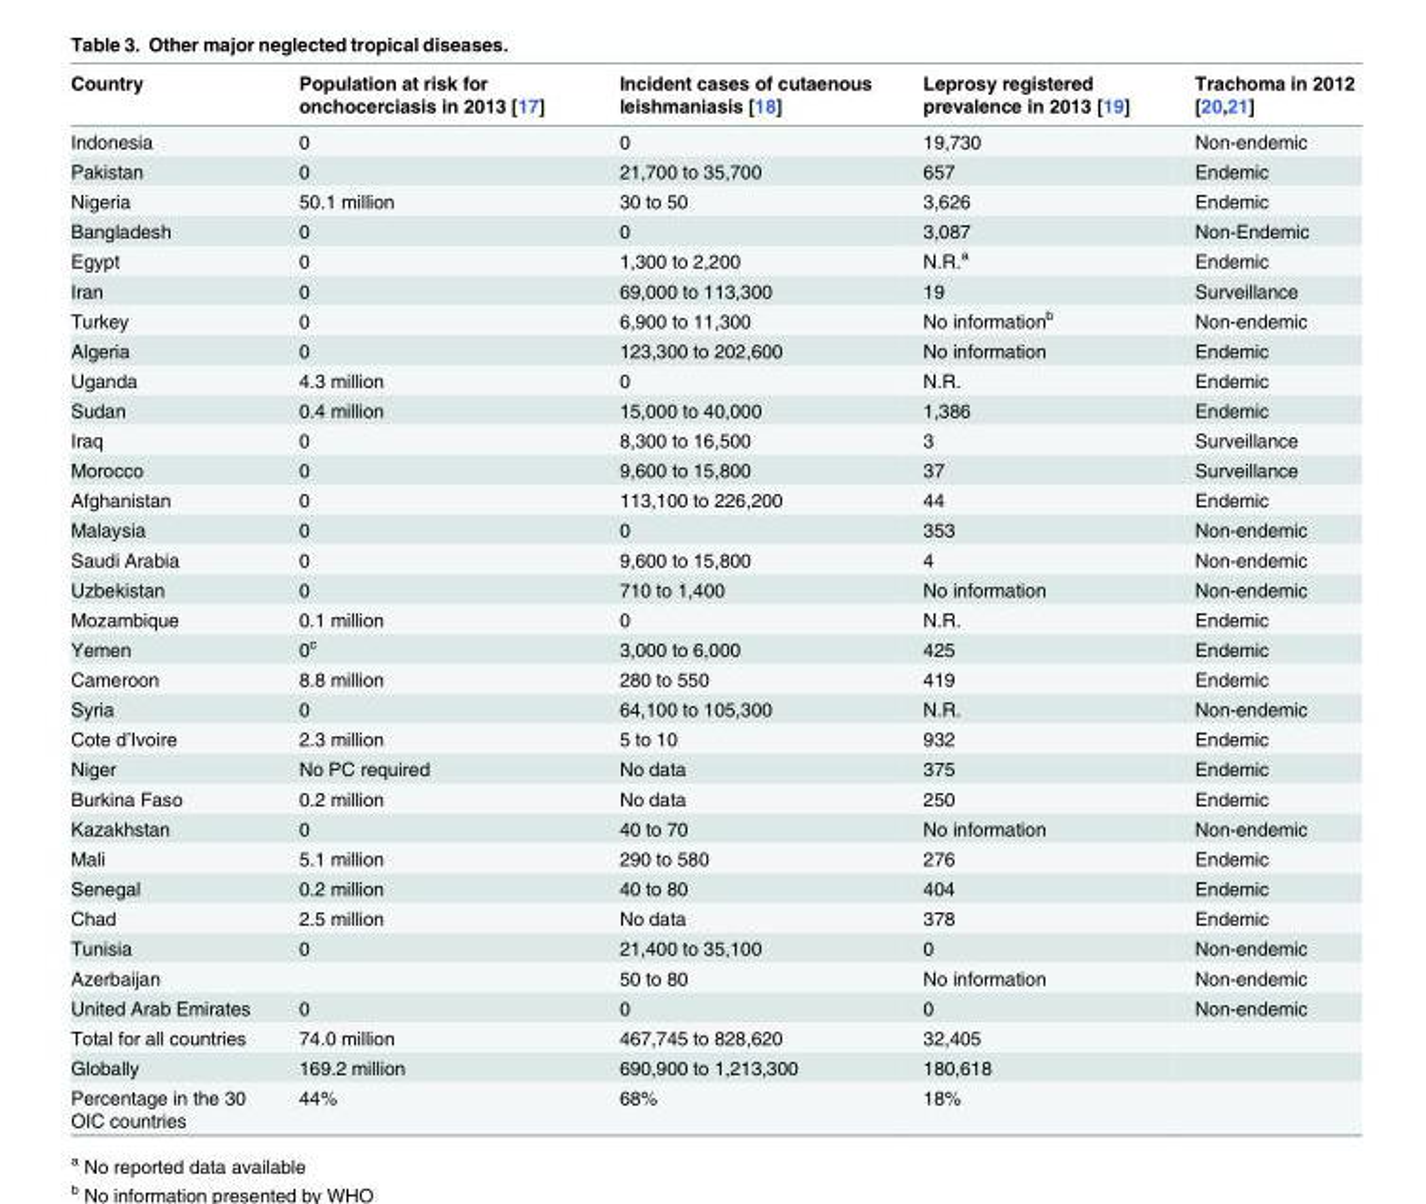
<table><thead><tr><td>Country</td><td>Population at risk for onchocerciasis in 2013 [17]</td><td>Incident cases of cutaenous leishmaniasis [18]</td><td>Leprosy registered prevalence in 2013 [19]</td><td>Trachoma in 2012 [20,21]</td></tr></thead><tbody><tr><td>Indonesia</td><td>0</td><td>0</td><td>19,730</td><td>Non-endemic</td></tr><tr><td>Pakistan</td><td>0</td><td>21,700 to 35,700</td><td>657</td><td>Endemic</td></tr><tr><td>Nigeria</td><td>50.1 million</td><td>30 to 50</td><td>3,626</td><td>Endemic</td></tr><tr><td>Bangladesh</td><td>0</td><td>0</td><td>3,087</td><td>Non-Endemic</td></tr><tr><td>Egypt</td><td>0</td><td>1,300 to 2,200</td><td>N.R.<sup>a</sup></td><td>Endemic</td></tr><tr><td>Iran</td><td>0</td><td>69,000 to 113,300</td><td>19</td><td>Surveillance</td></tr><tr><td>Turkey</td><td>0</td><td>6,900 to 11,300</td><td>No information<sup>b</sup></td><td>Non-endemic</td></tr><tr><td>Algeria</td><td>0</td><td>123,300 to 202,600</td><td>No information</td><td>Endemic</td></tr><tr><td>Uganda</td><td>4.3 million</td><td>0</td><td>N.R.</td><td>Endemic</td></tr><tr><td>Sudan</td><td>0.4 million</td><td>15,000 to 40,000</td><td>1,386</td><td>Endemic</td></tr><tr><td>Iraq</td><td>0</td><td>8,300 to 16,500</td><td>3</td><td>Surveillance</td></tr><tr><td>Morocco</td><td>0</td><td>9,600 to 15,800</td><td>37</td><td>Surveillance</td></tr><tr><td>Afghanistan</td><td>0</td><td>113,100 to 226,200</td><td>44</td><td>Endemic</td></tr><tr><td>Malaysia</td><td>0</td><td>0</td><td>353</td><td>Non-endemic</td></tr><tr><td>Saudi Arabia</td><td>0</td><td>9,600 to 15,800</td><td>4</td><td>Non-endemic</td></tr><tr><td>Uzbekistan</td><td>0</td><td>710 to 1,400</td><td>No information</td><td>Non-endemic</td></tr><tr><td>Mozambique</td><td>0.1 million</td><td>0</td><td>N.R.</td><td>Endemic</td></tr><tr><td>Yemen</td><td>0<sup>c</sup></td><td>3,000 to 6,000</td><td>425</td><td>Endemic</td></tr><tr><td>Cameroon</td><td>8.8 million</td><td>280 to 550</td><td>419</td><td>Endemic</td></tr><tr><td>Syria</td><td>0</td><td>64,100 to 105,300</td><td>N.R.</td><td>Non-endemic</td></tr><tr><td>Cote d’Ivoire</td><td>2.3 million</td><td>5 to 10</td><td>932</td><td>Endemic</td></tr><tr><td>Niger</td><td>No PC required</td><td>No data</td><td>375</td><td>Endemic</td></tr><tr><td>Burkina Faso</td><td>0.2 million</td><td>No data</td><td>250</td><td>Endemic</td></tr><tr><td>Kazakhstan</td><td>0</td><td>40 to 70</td><td>No information</td><td>Non-endemic</td></tr><tr><td>Mali</td><td>5.1 million</td><td>290 to 580</td><td>276</td><td>Endemic</td></tr><tr><td>Senegal</td><td>0.2 million</td><td>40 to 80</td><td>404</td><td>Endemic</td></tr><tr><td>Chad</td><td>2.5 million</td><td>No data</td><td>378</td><td>Endemic</td></tr><tr><td>Tunisia</td><td>0</td><td>21,400 to 35,100</td><td>0</td><td>Non-endemic</td></tr><tr><td>Azerbaijan</td><td></td><td>50 to 80</td><td>No information</td><td>Non-endemic</td></tr><tr><td>United Arab Emirates</td><td>0</td><td>0</td><td>0</td><td>Non-endemic</td></tr><tr><td>Total for all countries</td><td>74.0 million</td><td>467,745 to 828,620</td><td>32,405</td><td></td></tr><tr><td>Globally</td><td>169.2 million</td><td>690,900 to 1,213,300</td><td>180,618</td><td></td></tr><tr><td>Percentage in the 30 OIC countries</td><td>44%</td><td>68%</td><td>18%</td><td></td></tr></tbody></table>